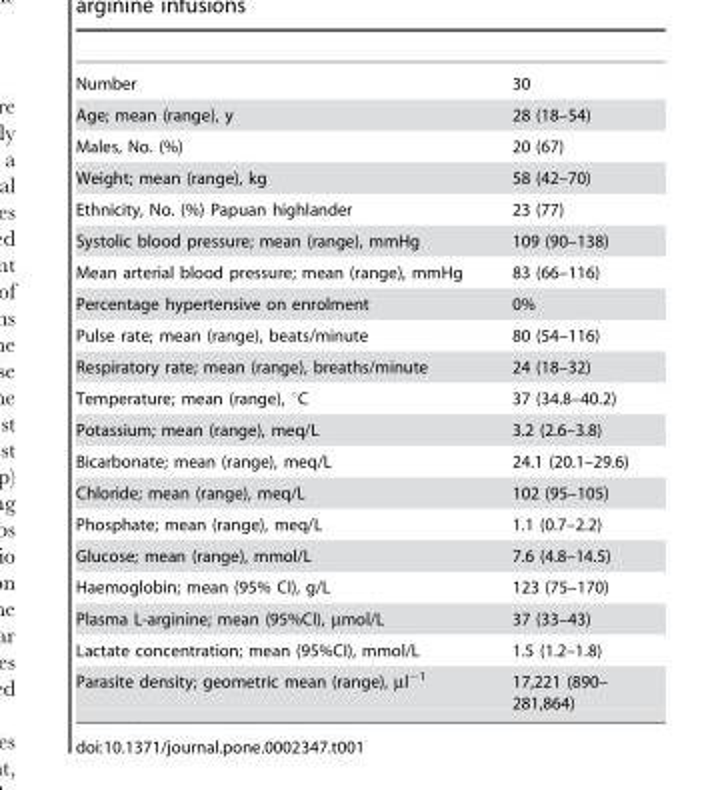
<table><tbody><tr><td>Number</td><td>30</td></tr><tr><td>Age; mean (range), y</td><td>28 (18–54)</td></tr><tr><td>Males, No. (%)</td><td>20 (67)</td></tr><tr><td>Weight; mean (range), kg</td><td>58 (42–70)</td></tr><tr><td>Ethnicity, No. (%) Papuan highlander</td><td>23 (77)</td></tr><tr><td>Systolic blood pressure; mean (range), mmHg</td><td>109 (90–138)</td></tr><tr><td>Mean arterial blood pressure; mean (range), mmHg</td><td>83 (66–116)</td></tr><tr><td>Percentage hypertensive on enrolment</td><td>0%</td></tr><tr><td>Pulse rate; mean (range), beats/minute</td><td>80 (54–116)</td></tr><tr><td>Respiratory rate; mean (range), breaths/minute</td><td>24 (18–32)</td></tr><tr><td>Temperature; mean (range), °C</td><td>37 (34.8–40.2)</td></tr><tr><td>Potassium; mean (range), meq/L</td><td>3.2 (2.6–3.8)</td></tr><tr><td>Bicarbonate; mean (range), meq/L</td><td>24.1 (20.1–29.6)</td></tr><tr><td>Chloride; mean (range), meq/L</td><td>102 (95–105)</td></tr><tr><td>Phosphate; mean (range), meq/L</td><td>1.1 (0.7–2.2)</td></tr><tr><td>Glucose; mean (range), mmol/L</td><td>7.6 (4.8–14.5)</td></tr><tr><td>Haemoglobin; mean (95% CI), g/L</td><td>123 (75–170)</td></tr><tr><td>Plasma L-arginine; mean (95%CI), µmol/L</td><td>37 (33–43)</td></tr><tr><td>Lactate concentration; mean (95%CI), mmol/L</td><td>1.5 (1.2–1.8)</td></tr><tr><td>Parasite density; geometric mean (range), µl<sup>−1</sup></td><td>17,221 (890– 281,864)</td></tr></tbody></table>